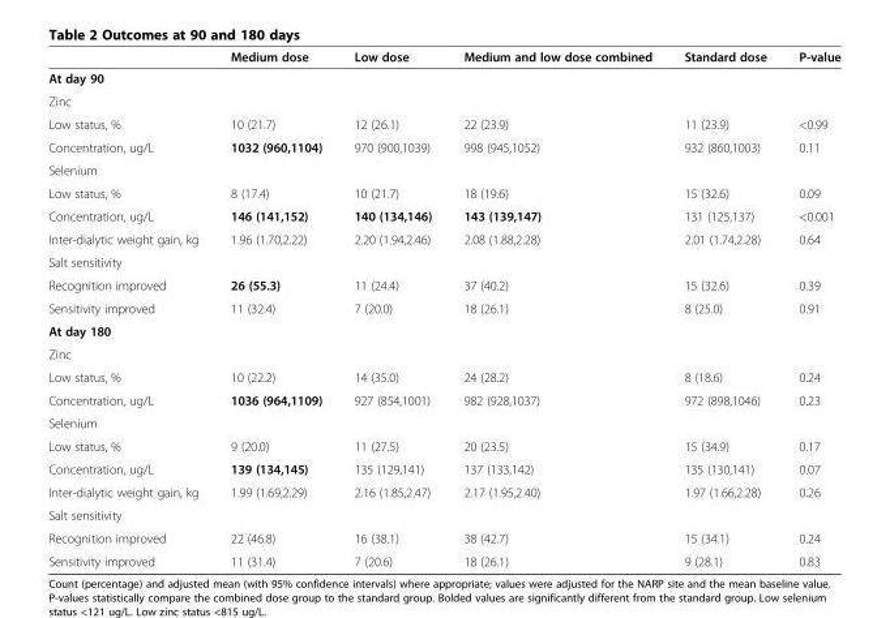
<table><thead><tr><td></td><td>Medium dose</td><td>Low dose</td><td>Medium and low dose combined</td><td>Standard dose</td><td>P-value</td></tr></thead><tbody><tr><td colspan="6">At day 90</td></tr><tr><td colspan="6">Zinc</td></tr><tr><td>Low status, %</td><td>10 (21.7)</td><td>12 (26.1)</td><td>22 (23.9)</td><td>11 (23.9)</td><td>&lt;0.99</td></tr><tr><td>Concentration, ug/L</td><td>1032 (960,1104)</td><td>970 (900,1039)</td><td>998 (945,1052)</td><td>932 (860,1003)</td><td>0.11</td></tr><tr><td colspan="6">Selenium</td></tr><tr><td>Low status, %</td><td>8 (17.4)</td><td>10 (21.7)</td><td>18 (19.6)</td><td>15 (32.6)</td><td>0.09</td></tr><tr><td>Concentration, ug/L</td><td>146 (141,152)</td><td>140 (134,146)</td><td>143 (139,147)</td><td>131 (125,137)</td><td>&lt;0.001</td></tr><tr><td>Inter-dialytic weight gain, kg</td><td>1.96 (1.70,2.22)</td><td>2.20 (1.94,2.46)</td><td>2.08 (1.88,2.28)</td><td>2.01 (1.74,2.28)</td><td>0.64</td></tr><tr><td colspan="6">Salt sensitivity</td></tr><tr><td>Recognition improved</td><td>26 (55.3)</td><td>11 (24.4)</td><td>37 (40.2)</td><td>15 (32.6)</td><td>0.39</td></tr><tr><td>Sensitivity improved</td><td>11 (32.4)</td><td>7 (20.0)</td><td>18 (26.1)</td><td>8 (25.0)</td><td>0.91</td></tr><tr><td colspan="6">At day 180</td></tr><tr><td colspan="6">Zinc</td></tr><tr><td>Low status, %</td><td>10 (22.2)</td><td>14 (35.0)</td><td>24 (28.2)</td><td>8 (18.6)</td><td>0.24</td></tr><tr><td>Concentration, ug/L</td><td>1036 (964,1109)</td><td>927 (854,1001)</td><td>982 (928,1037)</td><td>972 (898,1046)</td><td>0.23</td></tr><tr><td colspan="6">Selenium</td></tr><tr><td>Low status, %</td><td>9 (20.0)</td><td>11 (27.5)</td><td>20 (23.5)</td><td>15 (34.9)</td><td>0.17</td></tr><tr><td>Concentration, ug/L</td><td>139 (134,145)</td><td>135 (129,141)</td><td>137 (133,142)</td><td>135 (130,141)</td><td>0.07</td></tr><tr><td>Inter-dialytic weight gain, kg</td><td>1.99 (1.69,2.29)</td><td>2.16 (1.85,2.47)</td><td>2.17 (1.95,2.40)</td><td>1.97 (1.66,2.28)</td><td>0.26</td></tr><tr><td colspan="6">Salt sensitivity</td></tr><tr><td>Recognition improved</td><td>22 (46.8)</td><td>16 (38.1)</td><td>38 (42.7)</td><td>15 (34.1)</td><td>0.24</td></tr><tr><td>Sensitivity improved</td><td>11 (31.4)</td><td>7 (20.6)</td><td>18 (26.1)</td><td>9 (28.1)</td><td>0.83</td></tr></tbody></table>